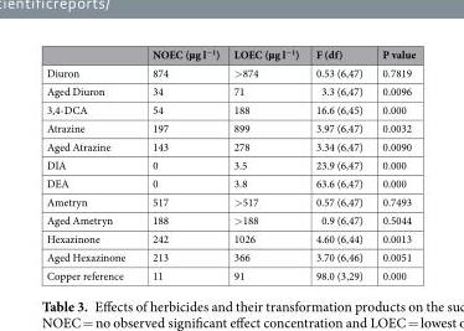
<table><thead><tr><td></td><td>NOEC (µg l<sup>−1</sup>)</td><td>LOEC (µg l<sup>−1</sup>)</td><td>F (df)</td><td>P value</td></tr></thead><tbody><tr><td>Diuron</td><td>874</td><td>&gt;874</td><td>0.53 (6,47)</td><td>0.7819</td></tr><tr><td>Aged Diuron</td><td>34</td><td>71</td><td>3.3 (6,47)</td><td>0.0096</td></tr><tr><td>3,4-DCA</td><td>54</td><td>188</td><td>16.6 (6,45)</td><td>0.000</td></tr><tr><td>Atrazine</td><td>197</td><td>899</td><td>3.97 (6,47)</td><td>0.0032</td></tr><tr><td>Aged Atrazine</td><td>143</td><td>278</td><td>3.34 (6,47)</td><td>0.0090</td></tr><tr><td>DIA</td><td>0</td><td>3.5</td><td>23.9 (6,47)</td><td>0.000</td></tr><tr><td>DEA</td><td>0</td><td>3.8</td><td>63.6 (6,47)</td><td>0.000</td></tr><tr><td>Ametryn</td><td>517</td><td>&gt;517</td><td>0.57 (6,47)</td><td>0.7493</td></tr><tr><td>Aged Ametryn</td><td>188</td><td>&gt;188</td><td>0.9 (6,47)</td><td>0.5044</td></tr><tr><td>Hexazinone</td><td>242</td><td>1026</td><td>4.60 (6,44)</td><td>0.0013</td></tr><tr><td>Aged Hexazinone</td><td>213</td><td>366</td><td>3.70 (6,46)</td><td>0.0051</td></tr><tr><td>Copper reference</td><td>11</td><td>91</td><td>98.0 (3,29)</td><td>0.000</td></tr></tbody></table>